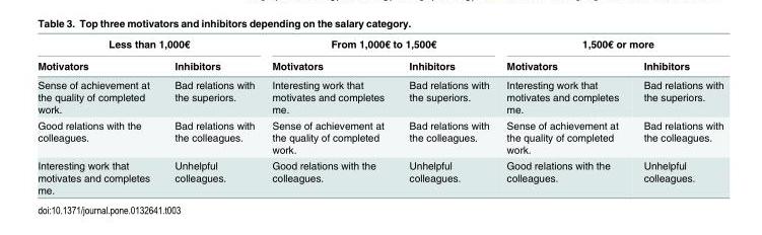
<table><thead><tr><td colspan="2">Less than 1,000€</td><td colspan="2">From 1,000€ to 1,500€</td><td colspan="2">1,500€ or more</td></tr><tr><td>Motivators</td><td>Inhibitors</td><td>Motivators</td><td>Inhibitors</td><td>Motivators</td><td>Inhibitors</td></tr></thead><tbody><tr><td>Sense of achievement at the quality of completed work.</td><td>Bad relations with the superiors.</td><td>Interesting work that motivates and completes me.</td><td>Bad relations with the superiors.</td><td>Interesting work that motivates and completes me.</td><td>Bad relations with the superiors.</td></tr><tr><td>Good relations with the colleagues.</td><td>Bad relations with the colleagues.</td><td>Sense of achievement at the quality of completed work.</td><td>Bad relations with the colleagues.</td><td>Sense of achievement at the quality of completed work.</td><td>Bad relations with the colleagues.</td></tr><tr><td>Interesting work that motivates and completes me.</td><td>Unhelpful colleagues.</td><td>Good relations with the colleagues.</td><td>Unhelpful colleagues.</td><td>Good relations with the colleagues.</td><td>Unhelpful colleagues.</td></tr></tbody></table>